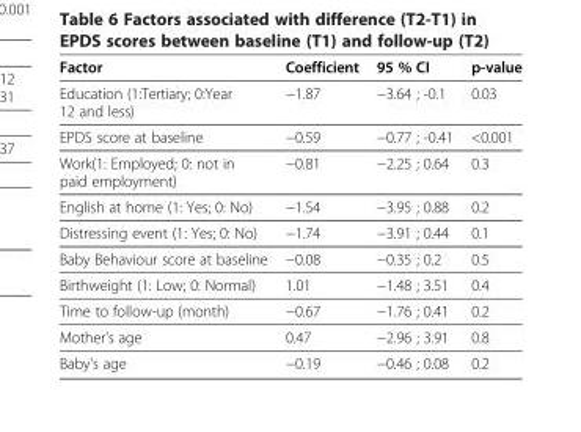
<table><thead><tr><td>Factor</td><td>Coefficient</td><td>95 % CI</td><td>p-value</td></tr></thead><tbody><tr><td>Education (1:Tertiary; 0:Year 12 and less)</td><td>−1.87</td><td>−3.64 ; -0.1</td><td>0.03</td></tr><tr><td>EPDS score at baseline</td><td>−0.59</td><td>−0.77 ; -0.41</td><td>&lt;0.001</td></tr><tr><td>Work(1: Employed; 0: not in paid employment)</td><td>−0.81</td><td>−2.25 ; 0.64</td><td>0.3</td></tr><tr><td>English at home (1: Yes; 0: No)</td><td>−1.54</td><td>−3.95 ; 0.88</td><td>0.2</td></tr><tr><td>Distressing event (1: Yes; 0: No)</td><td>−1.74</td><td>−3.91 ; 0.44</td><td>0.1</td></tr><tr><td>Baby Behaviour score at baseline</td><td>−0.08</td><td>−0.35 ; 0.2</td><td>0.5</td></tr><tr><td>Birthweight (1: Low; 0: Normal)</td><td>1.01</td><td>−1.48 ; 3.51</td><td>0.4</td></tr><tr><td>Time to follow-up (month)</td><td>−0.67</td><td>−1.76 ; 0.41</td><td>0.2</td></tr><tr><td>Mother&#x27;s age</td><td>0.47</td><td>−2.96 ; 3.91</td><td>0.8</td></tr><tr><td>Baby&#x27;s age</td><td>−0.19</td><td>−0.46 ; 0.08</td><td>0.2</td></tr></tbody></table>